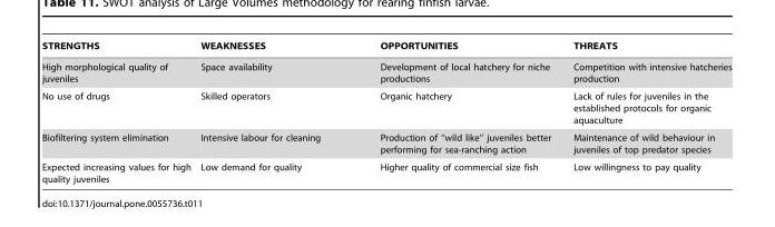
<table><thead><tr><td>STRENGTHS</td><td>WEAKNESSES</td><td>OPPORTUNITIES</td><td>THREATS</td></tr></thead><tbody><tr><td>High morphological quality of juveniles</td><td>Space availability</td><td>Development of local hatchery for niche productions</td><td>Competition with intensive hatcheries production</td></tr><tr><td>No use of drugs</td><td>Skilled operators</td><td>Organic hatchery</td><td>Lack of rules for juveniles in the established protocols for organic aquaculture</td></tr><tr><td>Biofiltering system elimination</td><td>Intensive labour for cleaning</td><td>Production of ‘‘wild like’’ juveniles better performing for sea-ranching action</td><td>Maintenance of wild behaviour in juveniles of top predator species</td></tr><tr><td>Expected increasing values for high quality juveniles</td><td>Low demand for quality</td><td>Higher quality of commercial size fish</td><td>Low willingness to pay quality</td></tr></tbody></table>